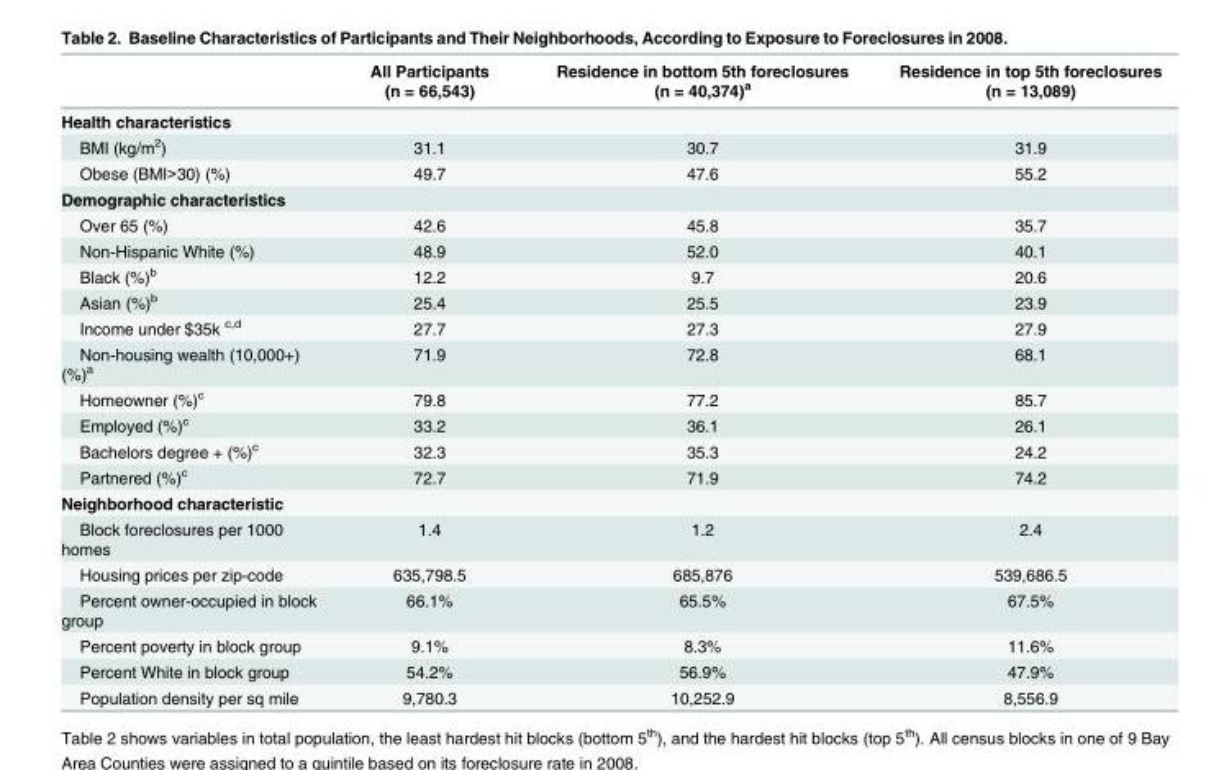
<table><thead><tr><td></td><td>All Participants (n = 66,543)</td><td>Residence in bottom 5th foreclosures (n = 40,374)<sup>a</sup></td><td>Residence in top 5th foreclosures (n = 13,089)</td></tr></thead><tbody><tr><td colspan="4">Health characteristics</td></tr><tr><td>BMI (kg/m<sup>2</sup>)</td><td>31.1</td><td>30.7</td><td>31.9</td></tr><tr><td>Obese (BMI&gt;30) (%)</td><td>49.7</td><td>47.6</td><td>55.2</td></tr><tr><td colspan="4">Demographic characteristics</td></tr><tr><td>Over 65 (%)</td><td>42.6</td><td>45.8</td><td>35.7</td></tr><tr><td>Non-Hispanic White (%)</td><td>48.9</td><td>52.0</td><td>40.1</td></tr><tr><td>Black (%)<sup>b</sup></td><td>12.2</td><td>9.7</td><td>20.6</td></tr><tr><td>Asian (%)<sup>b</sup></td><td>25.4</td><td>25.5</td><td>23.9</td></tr><tr><td>Income under $35k <sup>c,d</sup></td><td>27.7</td><td>27.3</td><td>27.9</td></tr><tr><td>Non-housing wealth (10,000+) (%)<sup>a</sup></td><td>71.9</td><td>72.8</td><td>68.1</td></tr><tr><td>Homeowner (%)<sup>c</sup></td><td>79.8</td><td>77.2</td><td>85.7</td></tr><tr><td>Employed (%)<sup>c</sup></td><td>33.2</td><td>36.1</td><td>26.1</td></tr><tr><td>Bachelors degree + (%)<sup>c</sup></td><td>32.3</td><td>35.3</td><td>24.2</td></tr><tr><td>Partnered (%)<sup>c</sup></td><td>72.7</td><td>71.9</td><td>74.2</td></tr><tr><td colspan="4">Neighborhood characteristic</td></tr><tr><td>Block foreclosures per 1000 homes</td><td>1.4</td><td>1.2</td><td>2.4</td></tr><tr><td>Housing prices per zip-code</td><td>635,798.5</td><td>685,876</td><td>539,686.5</td></tr><tr><td>Percent owner-occupied in block group</td><td>66.1%</td><td>65.5%</td><td>67.5%</td></tr><tr><td>Percent poverty in block group</td><td>9.1%</td><td>8.3%</td><td>11.6%</td></tr><tr><td>Percent White in block group</td><td>54.2%</td><td>56.9%</td><td>47.9%</td></tr><tr><td>Population density per sq mile</td><td>9,780.3</td><td>10,252.9</td><td>8,556.9</td></tr></tbody></table>